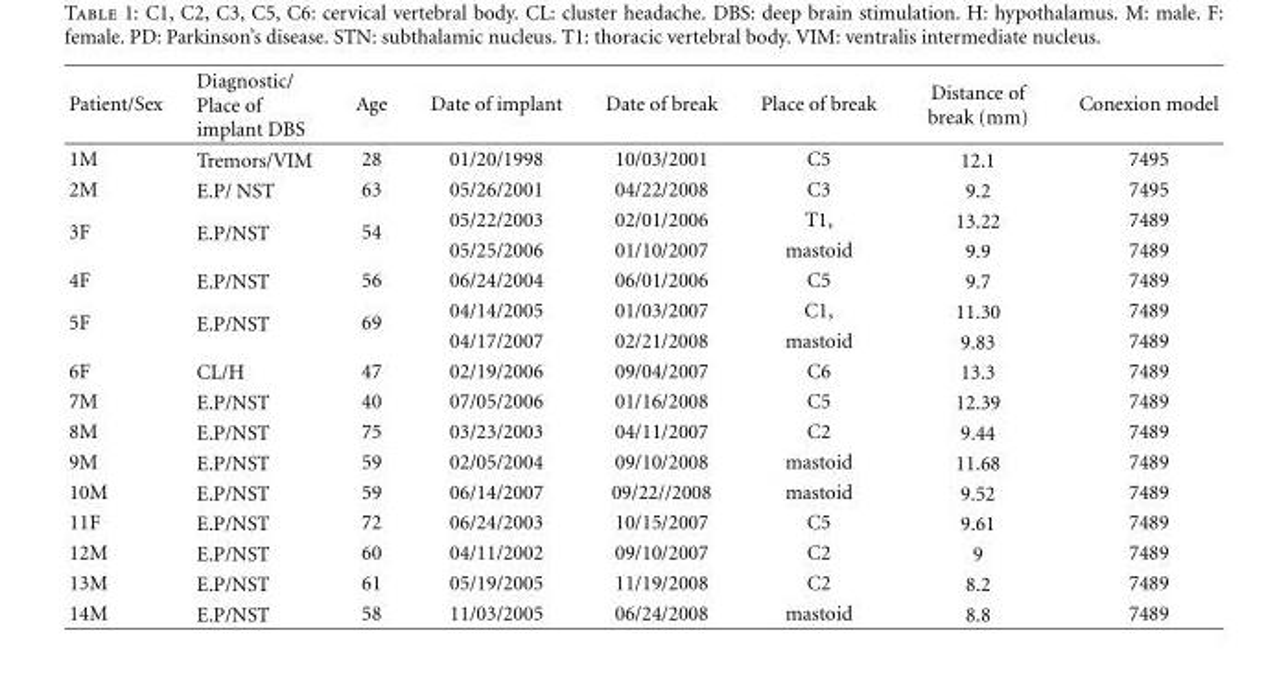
<table><thead><tr><td>Patient/Sex</td><td>Diagnostic/ Place of implant DBS</td><td>Age</td><td>Date of implant</td><td>Date of break</td><td>Place of break</td><td>Distance of break (mm)</td><td>Conexion model</td></tr></thead><tbody><tr><td>1M</td><td>Tremors/VIM</td><td>28</td><td>01/20/1998</td><td>10/03/2001</td><td>C5</td><td>12.1</td><td>7495</td></tr><tr><td>2M</td><td>E.P/ NST</td><td>63</td><td>05/26/2001</td><td>04/22/2008</td><td>C3</td><td>9.2</td><td>7495</td></tr><tr><td rowspan="2">3F</td><td rowspan="2">E.P/NST</td><td rowspan="2">54</td><td>05/22/2003</td><td>02/01/2006</td><td>T1,</td><td>13.22</td><td>7489</td></tr><tr><td>05/25/2006</td><td>01/10/2007</td><td>mastoid</td><td>9.9</td><td>7489</td></tr><tr><td>4F</td><td>E.P/NST</td><td>56</td><td>06/24/2004</td><td>06/01/2006</td><td>C5</td><td>9.7</td><td>7489</td></tr><tr><td rowspan="2">5F</td><td rowspan="2">E.P/NST</td><td rowspan="2">69</td><td>04/14/2005</td><td>01/03/2007</td><td>C1,</td><td>11.30</td><td>7489</td></tr><tr><td>04/17/2007</td><td>02/21/2008</td><td>mastoid</td><td>9.83</td><td>7489</td></tr><tr><td>6F</td><td>CL/H</td><td>47</td><td>02/19/2006</td><td>09/04/2007</td><td>C6</td><td>13.3</td><td>7489</td></tr><tr><td>7M</td><td>E.P/NST</td><td>40</td><td>07/05/2006</td><td>01/16/2008</td><td>C5</td><td>12.39</td><td>7489</td></tr><tr><td>8M</td><td>E.P/NST</td><td>75</td><td>03/23/2003</td><td>04/11/2007</td><td>C2</td><td>9.44</td><td>7489</td></tr><tr><td>9M</td><td>E.P/NST</td><td>59</td><td>02/05/2004</td><td>09/10/2008</td><td>mastoid</td><td>11.68</td><td>7489</td></tr><tr><td>10M</td><td>E.P/NST</td><td>59</td><td>06/14/2007</td><td>09/22//2008</td><td>mastoid</td><td>9.52</td><td>7489</td></tr><tr><td>11F</td><td>E.P/NST</td><td>72</td><td>06/24/2003</td><td>10/15/2007</td><td>C5</td><td>9.61</td><td>7489</td></tr><tr><td>12M</td><td>E.P/NST</td><td>60</td><td>04/11/2002</td><td>09/10/2007</td><td>C2</td><td>9</td><td>7489</td></tr><tr><td>13M</td><td>E.P/NST</td><td>61</td><td>05/19/2005</td><td>11/19/2008</td><td>C2</td><td>8.2</td><td>7489</td></tr><tr><td>14M</td><td>E.P/NST</td><td>58</td><td>11/03/2005</td><td>06/24/2008</td><td>mastoid</td><td>8.8</td><td>7489</td></tr></tbody></table>